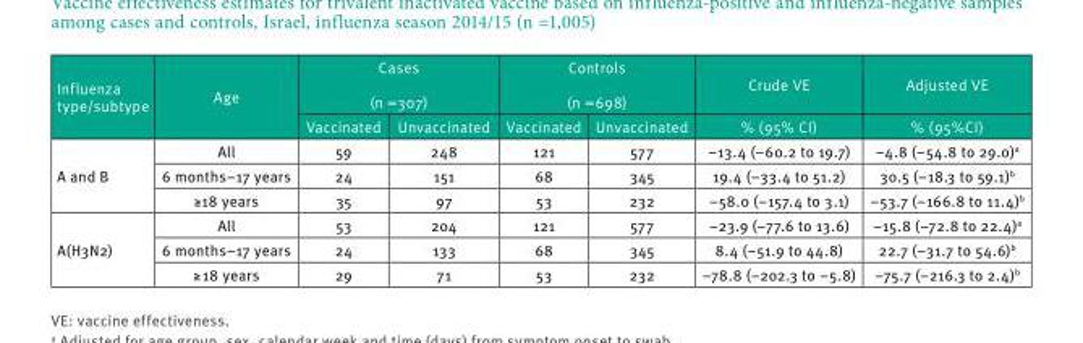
<table><thead><tr><td rowspan="2">Influenza type/subtype</td><td rowspan="2">Age</td><td colspan="2">Cases (n =307)</td><td colspan="2">Controls (n =698)</td><td rowspan="2">Crude VE % (95% CI)</td><td rowspan="2">Adjusted VE % (95%CI)</td></tr><tr><td>Vaccinated</td><td>Unvaccinated</td><td>Vaccinated</td><td>Unvaccinated</td></tr></thead><tbody><tr><td rowspan="3">A and B</td><td>All</td><td>59</td><td>248</td><td>121</td><td>577</td><td>−13.4 (−60.2 to 19.7)</td><td>−4.8 (−54.8 to 29.0)<sup>a</sup></td></tr><tr><td>6 months–17 years</td><td>24</td><td>151</td><td>68</td><td>345</td><td>19.4 (−33.4 to 51.2)</td><td>30.5 (−18.3 to 59.1)<sup>b</sup></td></tr><tr><td>≥18 years</td><td>35</td><td>97</td><td>53</td><td>232</td><td>−58.0 (−157.4 to 3.1)</td><td>−53.7 (−166.8 to 11.4)<sup>b</sup></td></tr><tr><td rowspan="3">A(H3N2)</td><td>All</td><td>53</td><td>204</td><td>121</td><td>577</td><td>−23.9 (−77.6 to 13.6)</td><td>−15.8 (−72.8 to 22.4)<sup>a</sup></td></tr><tr><td>6 months–17 years</td><td>24</td><td>133</td><td>68</td><td>345</td><td>8.4 (−51.9 to 44.8)</td><td>22.7 (−31.7 to 54.6)<sup>b</sup></td></tr><tr><td>≥ 18 years</td><td>29</td><td>71</td><td>53</td><td>232</td><td>−78.8 (−202.3 to −5.8)</td><td>−75.7 (−216.3 to 2.4)<sup>b</sup></td></tr></tbody></table>